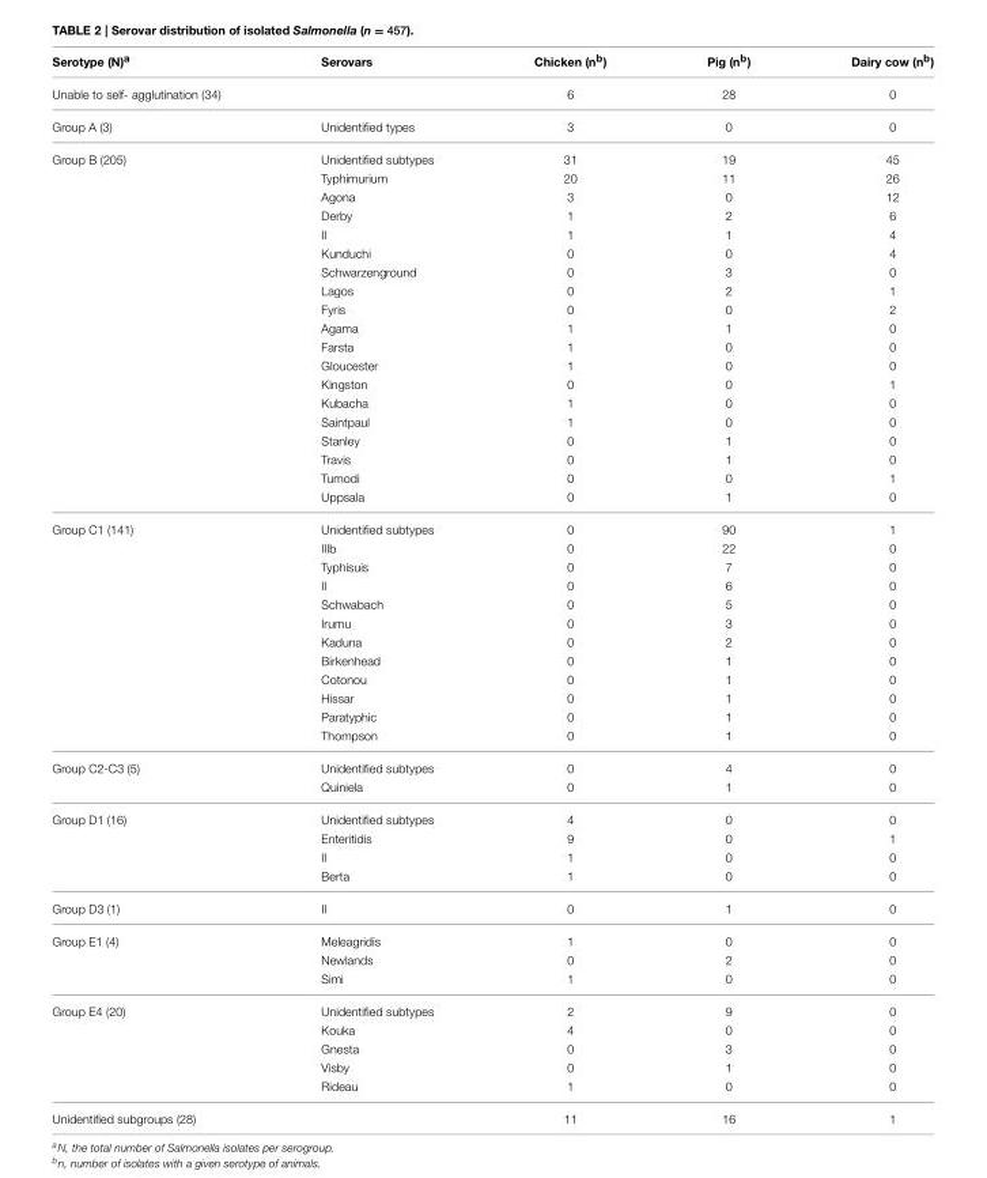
<table><thead><tr><td>Serotype (N)<sup>a</sup></td><td>Serovars</td><td>Chicken (n<sup>b</sup>)</td><td>Pig (n<sup>b</sup>)</td><td>Dairy cow (n<sup>b</sup>)</td></tr></thead><tbody><tr><td>Unable to self- agglutination (34)</td><td></td><td>6</td><td>28</td><td>0</td></tr><tr><td>Group A (3)</td><td>Unidentified types</td><td>3</td><td>0</td><td>0</td></tr><tr><td rowspan="19">Group B (205)</td><td>Unidentified subtypes</td><td>31</td><td>19</td><td>45</td></tr><tr><td>Typhimurium</td><td>20</td><td>11</td><td>26</td></tr><tr><td>Agona</td><td>3</td><td>0</td><td>12</td></tr><tr><td>Derby</td><td>1</td><td>2</td><td>6</td></tr><tr><td>II</td><td>1</td><td>1</td><td>4</td></tr><tr><td>Kunduchi</td><td>0</td><td>0</td><td>4</td></tr><tr><td>Schwarzenground</td><td>0</td><td>3</td><td>0</td></tr><tr><td>Lagos</td><td>0</td><td>2</td><td>1</td></tr><tr><td>Fyris</td><td>0</td><td>0</td><td>2</td></tr><tr><td>Agama</td><td>1</td><td>1</td><td>0</td></tr><tr><td>Farsta</td><td>1</td><td>0</td><td>0</td></tr><tr><td>Gloucester</td><td>1</td><td>0</td><td>0</td></tr><tr><td>Kingston</td><td>0</td><td>0</td><td>1</td></tr><tr><td>Kubacha</td><td>1</td><td>0</td><td>0</td></tr><tr><td>Saintpaul</td><td>1</td><td>0</td><td>0</td></tr><tr><td>Stanley</td><td>0</td><td>1</td><td>0</td></tr><tr><td>Travis</td><td>0</td><td>1</td><td>0</td></tr><tr><td>Tumodi</td><td>0</td><td>0</td><td>1</td></tr><tr><td>Uppsala</td><td>0</td><td>1</td><td>0</td></tr><tr><td rowspan="12">Group C1 (141)</td><td>Unidentified subtypes</td><td>0</td><td>90</td><td>1</td></tr><tr><td>IIIb</td><td>0</td><td>22</td><td>0</td></tr><tr><td>Typhisuis</td><td>0</td><td>7</td><td>0</td></tr><tr><td>II</td><td>0</td><td>6</td><td>0</td></tr><tr><td>Schwabach</td><td>0</td><td>5</td><td>0</td></tr><tr><td>Irumu</td><td>0</td><td>3</td><td>0</td></tr><tr><td>Kaduna</td><td>0</td><td>2</td><td>0</td></tr><tr><td>Birkenhead</td><td>0</td><td>1</td><td>0</td></tr><tr><td>Cotonou</td><td>0</td><td>1</td><td>0</td></tr><tr><td>Hissar</td><td>0</td><td>1</td><td>0</td></tr><tr><td>Paratyphic</td><td>0</td><td>1</td><td>0</td></tr><tr><td>Thompson</td><td>0</td><td>1</td><td>0</td></tr><tr><td rowspan="2">Group C2-C3 (5)</td><td>Unidentified subtypes</td><td>0</td><td>4</td><td>0</td></tr><tr><td>Quiniela</td><td>0</td><td>1</td><td>0</td></tr><tr><td rowspan="4">Group D1 (16)</td><td>Unidentified subtypes</td><td>4</td><td>0</td><td>0</td></tr><tr><td>Enteritidis</td><td>9</td><td>0</td><td>1</td></tr><tr><td>II</td><td>1</td><td>0</td><td>0</td></tr><tr><td>Berta</td><td>1</td><td>0</td><td>0</td></tr><tr><td>Group D3 (1)</td><td>II</td><td>0</td><td>1</td><td>0</td></tr><tr><td rowspan="3">Group E1 (4)</td><td>Meleagridis</td><td>1</td><td>0</td><td>0</td></tr><tr><td>Newlands</td><td>0</td><td>2</td><td>0</td></tr><tr><td>Simi</td><td>1</td><td>0</td><td>0</td></tr><tr><td rowspan="5">Group E4 (20)</td><td>Unidentified subtypes</td><td>2</td><td>9</td><td>0</td></tr><tr><td>Kouka</td><td>4</td><td>0</td><td>0</td></tr><tr><td>Gnesta</td><td>0</td><td>3</td><td>0</td></tr><tr><td>Visby</td><td>0</td><td>1</td><td>0</td></tr><tr><td>Rideau</td><td>1</td><td>0</td><td>0</td></tr><tr><td>Unidentified subgroups (28)</td><td></td><td>11</td><td>16</td><td>1</td></tr></tbody></table>